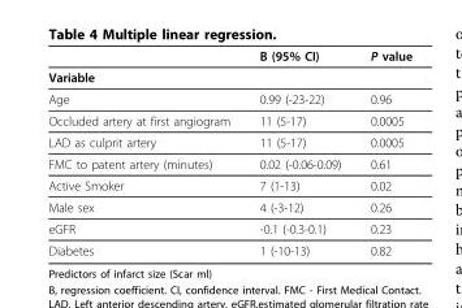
<table><thead><tr><td></td><td>B (95% CI)</td><td>P value</td></tr></thead><tbody><tr><td colspan="3">Variable</td></tr><tr><td>Age</td><td>0.99 (-23-22)</td><td>0.96</td></tr><tr><td>Occluded artery at first angiogram</td><td>11 (5-17)</td><td>0.0005</td></tr><tr><td>LAD as culprit artery</td><td>11 (5-17)</td><td>0.0005</td></tr><tr><td>FMC to patent artery (minutes)</td><td>0.02 (-0.06-0.09)</td><td>0.61</td></tr><tr><td>Active Smoker</td><td>7 (1-13)</td><td>0.02</td></tr><tr><td>Male sex</td><td>4 (-3-12)</td><td>0.26</td></tr><tr><td>eGFR</td><td>-0.1 (-0.3-0.1)</td><td>0.23</td></tr><tr><td>Diabetes</td><td>1 (-10-13)</td><td>0.82</td></tr></tbody></table>